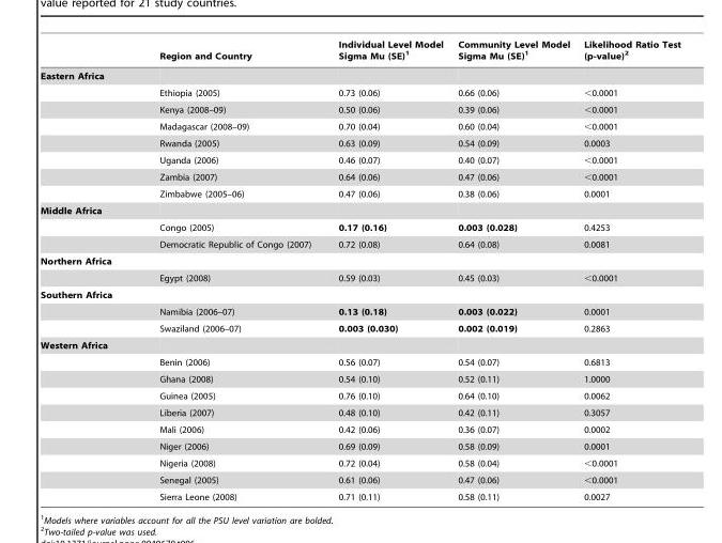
<table><thead><tr><td></td><td>Region and Country</td><td>Individual Level Model Sigma Mu (SE)<sup>1</sup></td><td>Community Level Model Sigma Mu (SE)<sup>1</sup></td><td>Likelihood Ratio Test (p-value)<sup>2</sup></td></tr></thead><tbody><tr><td colspan="5">Eastern Africa</td></tr><tr><td></td><td>Ethiopia (2005)</td><td>0.73 (0.06)</td><td>0.66 (0.06)</td><td>&lt;0.0001</td></tr><tr><td></td><td>Kenya (2008–09)</td><td>0.50 (0.06)</td><td>0.39 (0.06)</td><td>&lt;0.0001</td></tr><tr><td></td><td>Madagascar (2008–09)</td><td>0.70 (0.04)</td><td>0.60 (0.04)</td><td>&lt;0.0001</td></tr><tr><td></td><td>Rwanda (2005)</td><td>0.63 (0.09)</td><td>0.54 (0.09)</td><td>0.0003</td></tr><tr><td></td><td>Uganda (2006)</td><td>0.46 (0.07)</td><td>0.40 (0.07)</td><td>&lt;0.0001</td></tr><tr><td></td><td>Zambia (2007)</td><td>0.64 (0.06)</td><td>0.47 (0.06)</td><td>&lt;0.0001</td></tr><tr><td></td><td>Zimbabwe (2005–06)</td><td>0.47 (0.06)</td><td>0.38 (0.06)</td><td>0.0001</td></tr><tr><td colspan="5">Middle Africa</td></tr><tr><td></td><td>Congo (2005)</td><td>0.17 (0.16)</td><td>0.003 (0.028)</td><td>0.4253</td></tr><tr><td></td><td>Democratic Republic of Congo (2007)</td><td>0.72 (0.08)</td><td>0.64 (0.08)</td><td>0.0081</td></tr><tr><td colspan="5">Northern Africa</td></tr><tr><td></td><td>Egypt (2008)</td><td>0.59 (0.03)</td><td>0.45 (0.03)</td><td>&lt;0.0001</td></tr><tr><td colspan="5">Southern Africa</td></tr><tr><td></td><td>Namibia (2006–07)</td><td>0.13 (0.18)</td><td>0.003 (0.022)</td><td>0.0001</td></tr><tr><td></td><td>Swaziland (2006–07)</td><td>0.003 (0.030)</td><td>0.002 (0.019)</td><td>0.2863</td></tr><tr><td colspan="5">Western Africa</td></tr><tr><td></td><td>Benin (2006)</td><td>0.56 (0.07)</td><td>0.54 (0.07)</td><td>0.6813</td></tr><tr><td></td><td>Ghana (2008)</td><td>0.54 (0.10)</td><td>0.52 (0.11)</td><td>1.0000</td></tr><tr><td></td><td>Guinea (2005)</td><td>0.76 (0.10)</td><td>0.64 (0.10)</td><td>0.0062</td></tr><tr><td></td><td>Liberia (2007)</td><td>0.48 (0.10)</td><td>0.42 (0.11)</td><td>0.3057</td></tr><tr><td></td><td>Mali (2006)</td><td>0.42 (0.06)</td><td>0.36 (0.07)</td><td>0.0002</td></tr><tr><td></td><td>Niger (2006)</td><td>0.69 (0.09)</td><td>0.58 (0.09)</td><td>0.0001</td></tr><tr><td></td><td>Nigeria (2008)</td><td>0.72 (0.04)</td><td>0.58 (0.04)</td><td>&lt;0.0001</td></tr><tr><td></td><td>Senegal (2005)</td><td>0.61 (0.06)</td><td>0.47 (0.06)</td><td>&lt;0.0001</td></tr><tr><td></td><td>Sierra Leone (2008)</td><td>0.71 (0.11)</td><td>0.58 (0.11)</td><td>0.0027</td></tr></tbody></table>